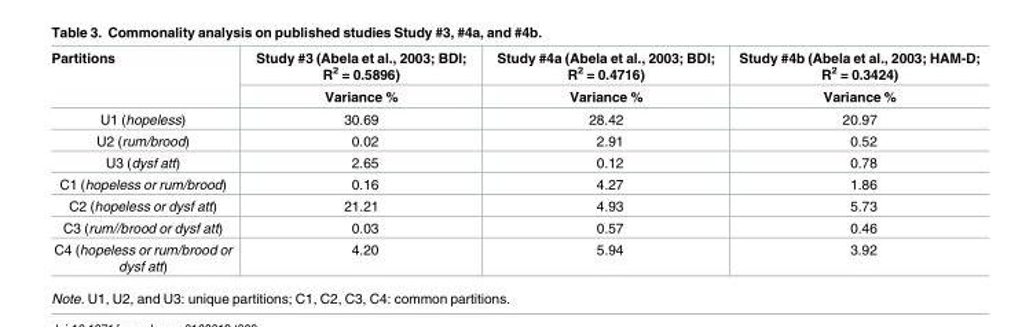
<table><thead><tr><td rowspan="2">Partitions</td><td rowspan="2">Study #3 (Abela et al., 2003; BDI; R<sup>2</sup> = 0.5896) Variance %</td><td rowspan="2">Study #4a (Abela et al., 2003; BDI; R<sup>2</sup> = 0.4716) Variance %</td><td rowspan="2">Study #4b (Abela et al., 2003; HAM-D; R<sup>2</sup> = 0.3424) Variance %</td></tr><tr></tr></thead><tbody><tr><td>U1 (hopeless)</td><td>30.69</td><td>28.42</td><td>20.97</td></tr><tr><td>U2 (rum/brood)</td><td>0.02</td><td>2.91</td><td>0.52</td></tr><tr><td>U3 (dysf att)</td><td>2.65</td><td>0.12</td><td>0.78</td></tr><tr><td>C1 (hopeless or rum/brood)</td><td>0.16</td><td>4.27</td><td>1.86</td></tr><tr><td>C2 (hopeless or dysf att)</td><td>21.21</td><td>4.93</td><td>5.73</td></tr><tr><td>C3 (rum//brood or dysf att)</td><td>0.03</td><td>0.57</td><td>0.46</td></tr><tr><td>C4 (hopeless or rum/brood or dysf att)</td><td>4.20</td><td>5.94</td><td>3.92</td></tr></tbody></table>